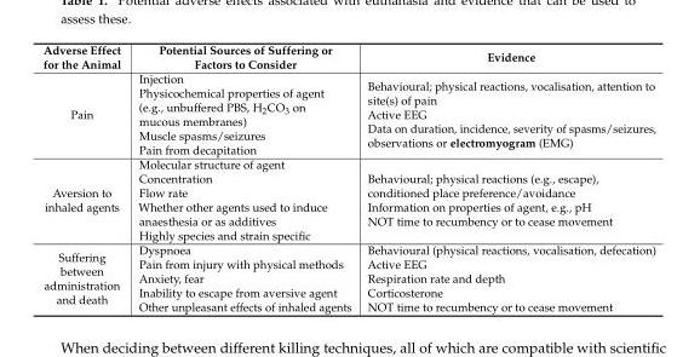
<table><thead><tr><td>Adverse Effect for the Animal</td><td>Potential Sources of Suffering or Factors to Consider</td><td>Evidence</td></tr></thead><tbody><tr><td>Pain</td><td>Injection Physicochemical properties of agent (e.g., unbuffered PBS, H<sub>2</sub>CO<sub>3</sub> on mucous membranes) Muscle spasms/seizures Pain from decapitation</td><td>Behavioural; physical reactions, vocalisation, attention to site(s) of pain Active EEG Data on duration, incidence, severity of spasms/seizures, observations or electromyogram (EMG)</td></tr><tr><td>Aversion to inhaled agents</td><td>Molecular structure of agent Concentration Flow rate Whether other agents used to induce anaesthesia or as additives Highly species and strain specific</td><td>Behavioural; physical reactions (e.g., escape), conditioned place preference/avoidance Information on properties of agent, e.g., pH NOT time to recumbency or to cease movement</td></tr><tr><td>Suffering between administration and death</td><td>Dyspnoea Pain from injury with physical methods Anxiety, fear Inability to escape from aversive agent Other unpleasant effects of inhaled agents</td><td>Behavioural (physical reactions, vocalisation, defecation) Active EEG Respiration rate and depth Corticosterone NOT time to recumbency or to cease movement</td></tr></tbody></table>